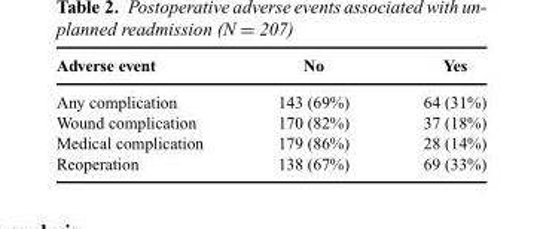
<table><thead><tr><td>Adverse event</td><td>No</td><td>Yes</td></tr></thead><tbody><tr><td>Any complication</td><td>143 (69%)</td><td>64 (31%)</td></tr><tr><td>Wound complication</td><td>170 (82%)</td><td>37 (18%)</td></tr><tr><td>Medical complication</td><td>179 (86%)</td><td>28 (14%)</td></tr><tr><td>Reoperation</td><td>138 (67%)</td><td>69 (33%)</td></tr></tbody></table>